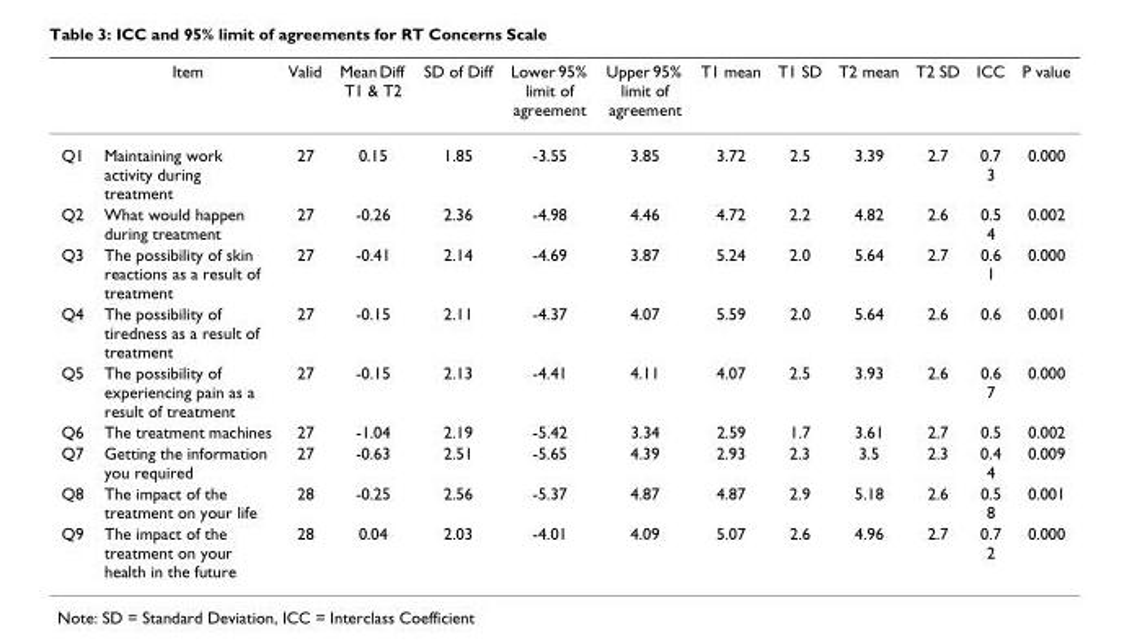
<table><thead><tr><td></td><td>Item</td><td>Valid</td><td>Mean Diff T1 &amp; T2</td><td>SD of Diff</td><td>Lower 95% limit of agreement</td><td>Upper 95% limit of agreement</td><td>T1 mean</td><td>T1 SD</td><td>T2 mean</td><td>T2 SD</td><td>ICC</td><td>P value</td></tr></thead><tbody><tr><td>Q1</td><td>Maintaining work activity during treatment</td><td>27</td><td>0.15</td><td>1.85</td><td>-3.55</td><td>3.85</td><td>3.72</td><td>2.5</td><td>3.39</td><td>2.7</td><td>0.7 3</td><td>0.000</td></tr><tr><td>Q2</td><td>What would happen during treatment</td><td>27</td><td>-0.26</td><td>2.36</td><td>-4.98</td><td>4.46</td><td>4.72</td><td>2.2</td><td>4.82</td><td>2.6</td><td>0.5 4</td><td>0.002</td></tr><tr><td>Q3</td><td>The possibility of skin reactions as a result of treatment</td><td>27</td><td>-0.41</td><td>2.14</td><td>-4.69</td><td>3.87</td><td>5.24</td><td>2.0</td><td>5.64</td><td>2.7</td><td>0.6 1</td><td>0.000</td></tr><tr><td>Q4</td><td>The possibility of tiredness as a result of treatment</td><td>27</td><td>-0.15</td><td>2.11</td><td>-4.37</td><td>4.07</td><td>5.59</td><td>2.0</td><td>5.64</td><td>2.6</td><td>0.6</td><td>0.001</td></tr><tr><td>Q5</td><td>The possibility of experiencing pain as a result of treatment</td><td>27</td><td>-0.15</td><td>2.13</td><td>-4.41</td><td>4.11</td><td>4.07</td><td>2.5</td><td>3.93</td><td>2.6</td><td>0.6 7</td><td>0.000</td></tr><tr><td>Q6</td><td>The treatment machines</td><td>27</td><td>-1.04</td><td>2.19</td><td>-5.42</td><td>3.34</td><td>2.59</td><td>1.7</td><td>3.61</td><td>2.7</td><td>0.5</td><td>0.002</td></tr><tr><td>Q7</td><td>Getting the information you required</td><td>27</td><td>-0.63</td><td>2.51</td><td>-5.65</td><td>4.39</td><td>2.93</td><td>2.3</td><td>3.5</td><td>2.3</td><td>0.4 4</td><td>0.009</td></tr><tr><td>Q8</td><td>The impact of the treatment on your life</td><td>28</td><td>-0.25</td><td>2.56</td><td>-5.37</td><td>4.87</td><td>4.87</td><td>2.9</td><td>5.18</td><td>2.6</td><td>0.5 8</td><td>0.001</td></tr><tr><td>Q9</td><td>The impact of the treatment on your health in the future</td><td>28</td><td>0.04</td><td>2.03</td><td>-4.01</td><td>4.09</td><td>5.07</td><td>2.6</td><td>4.96</td><td>2.7</td><td>0.7 2</td><td>0.000</td></tr></tbody></table>